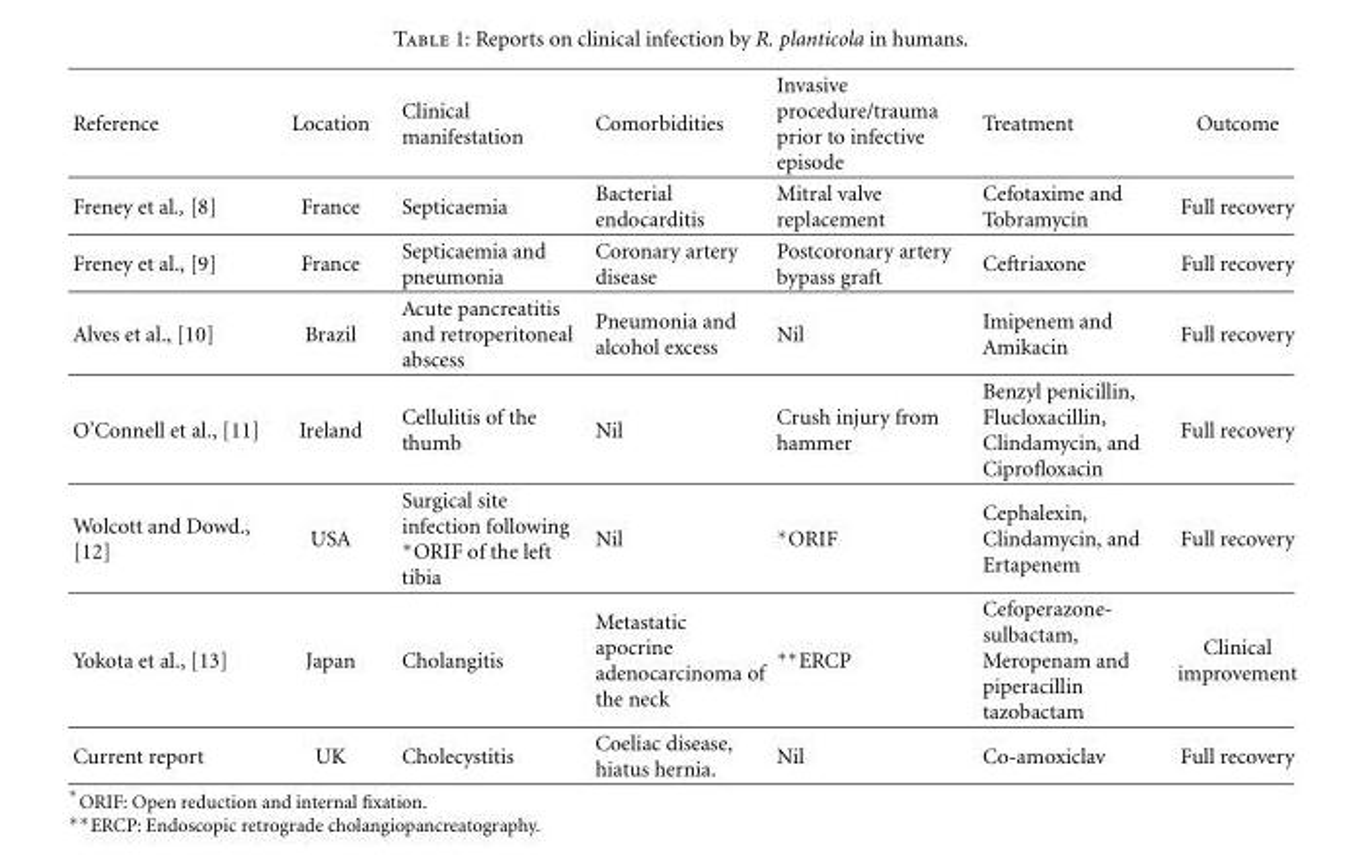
<table><thead><tr><td>Reference</td><td>Location</td><td>Clinical manifestation</td><td>Comorbidities</td><td>Invasive procedure/trauma prior to infective episode</td><td>Treatment</td><td>Outcome</td></tr></thead><tbody><tr><td>Freney et al., [8]</td><td>France</td><td>Septicaemia</td><td>Bacterial endocarditis</td><td>Mitral valve replacement</td><td>Cefotaxime and Tobramycin</td><td>Full recovery</td></tr><tr><td>Freney et al., [9]</td><td>France</td><td>Septicaemia and pneumonia</td><td>Coronary artery disease</td><td>Postcoronary artery bypass graft</td><td>Ceftriaxone</td><td>Full recovery</td></tr><tr><td>Alves et al., [10]</td><td>Brazil</td><td>Acute pancreatitis and retroperitoneal abscess</td><td>Pneumonia and alcohol excess</td><td>Nil</td><td>Imipenem and Amikacin</td><td>Full recovery</td></tr><tr><td>O’Connell et al., [11]</td><td>Ireland</td><td>Cellulitis of the thumb</td><td>Nil</td><td>Crush injury from hammer</td><td>Benzyl penicillin, Flucloxacillin, Clindamycin, and Ciprofloxacin</td><td>Full recovery</td></tr><tr><td>Wolcott and Dowd., [12]</td><td>USA</td><td>Surgical site infection following ∗ORIF of the left tibia</td><td>Nil</td><td>∗ORIF</td><td>Cephalexin, Clindamycin, and Ertapenem</td><td>Full recovery</td></tr><tr><td>Yokota et al., [13]</td><td>Japan</td><td>Cholangitis</td><td>Metastatic apocrine adenocarcinoma of the neck</td><td>∗∗ERCP</td><td>Cefoperazone- sulbactam, Meropenam and piperacillin tazobactam</td><td>Clinical improvement</td></tr><tr><td>Current report</td><td>UK</td><td>Cholecystitis</td><td>Coeliac disease, hiatus hernia.</td><td>Nil</td><td>Co-amoxiclav</td><td>Full recovery</td></tr></tbody></table>